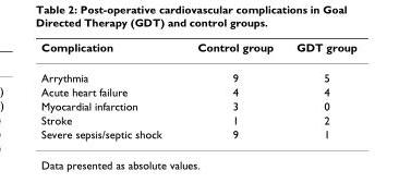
<table><thead><tr><td>Complication</td><td>Control group</td><td>GDT group</td></tr></thead><tbody><tr><td>Arrythmia</td><td>9</td><td>5</td></tr><tr><td>Acute heart failure</td><td>4</td><td>4</td></tr><tr><td>Myocardial infarction</td><td>3</td><td>0</td></tr><tr><td>Stroke</td><td>1</td><td>2</td></tr><tr><td>Severe sepsis/septic shock</td><td>9</td><td>1</td></tr></tbody></table>